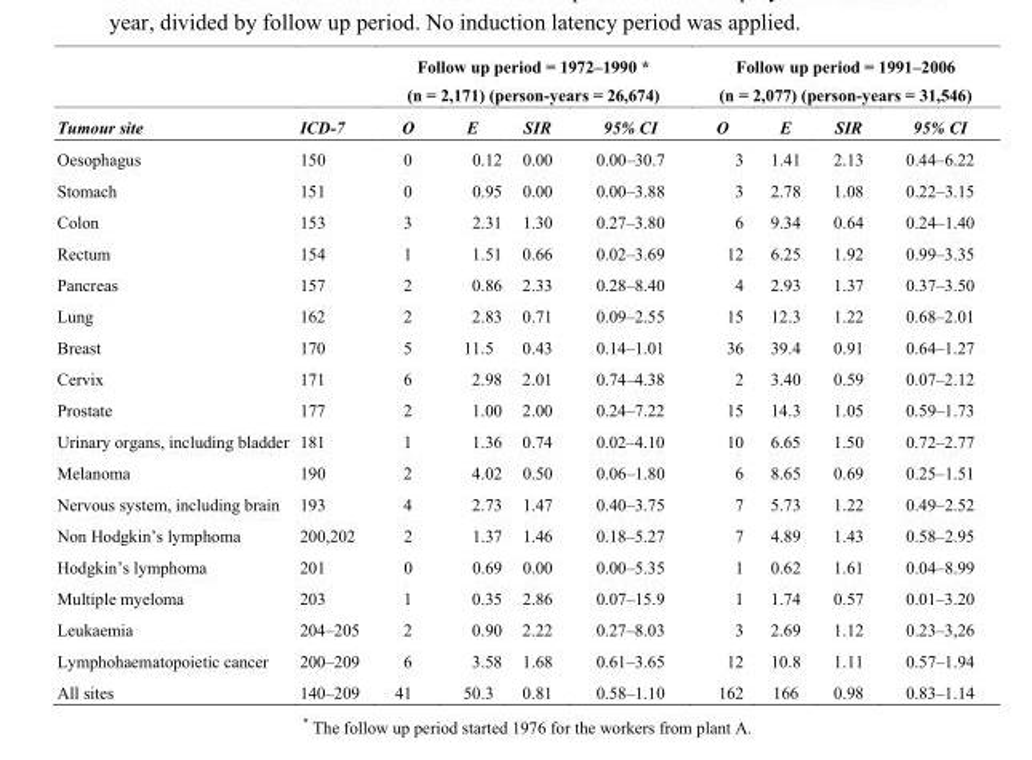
<table><thead><tr><td rowspan="2">Tumour site</td><td rowspan="2">ICD-7</td><td colspan="4">Follow up period = 1972–1990 * (n = 2,171) (person-years = 26,674)</td><td colspan="4">Follow up period = 1991–2006 (n = 2,077) (person-years = 31,546)</td></tr><tr><td>O</td><td>E</td><td>SIR</td><td>95% CI</td><td>O</td><td>E</td><td>SIR</td><td>95% CI</td></tr></thead><tbody><tr><td>Oesophagus</td><td>150</td><td>0</td><td>0.12</td><td>0.00</td><td>0.00–30.7</td><td>3</td><td>1.41</td><td>2.13</td><td>0.44–6.22</td></tr><tr><td>Stomach</td><td>151</td><td>0</td><td>0.95</td><td>0.00</td><td>0.00–3.88</td><td>3</td><td>2.78</td><td>1.08</td><td>0.22–3.15</td></tr><tr><td>Colon</td><td>153</td><td>3</td><td>2.31</td><td>1.30</td><td>0.27–3.80</td><td>6</td><td>9.34</td><td>0.64</td><td>0.24–1.40</td></tr><tr><td>Rectum</td><td>154</td><td>1</td><td>1.51</td><td>0.66</td><td>0.02–3.69</td><td>12</td><td>6.25</td><td>1.92</td><td>0.99–3.35</td></tr><tr><td>Pancreas</td><td>157</td><td>2</td><td>0.86</td><td>2.33</td><td>0.28–8.40</td><td>4</td><td>2.93</td><td>1.37</td><td>0.37–3.50</td></tr><tr><td>Lung</td><td>162</td><td>2</td><td>2.83</td><td>0.71</td><td>0.09–2.55</td><td>15</td><td>12.3</td><td>1.22</td><td>0.68–2.01</td></tr><tr><td>Breast</td><td>170</td><td>5</td><td>11.5</td><td>0.43</td><td>0.14–1.01</td><td>36</td><td>39.4</td><td>0.91</td><td>0.64–1.27</td></tr><tr><td>Cervix</td><td>171</td><td>6</td><td>2.98</td><td>2.01</td><td>0.74–4.38</td><td>2</td><td>3.40</td><td>0.59</td><td>0.07–2.12</td></tr><tr><td>Prostate</td><td>177</td><td>2</td><td>1.00</td><td>2.00</td><td>0.24–7.22</td><td>15</td><td>14.3</td><td>1.05</td><td>0.59–1.73</td></tr><tr><td>Urinary organs, including bladder</td><td>181</td><td>1</td><td>1.36</td><td>0.74</td><td>0.02–4.10</td><td>10</td><td>6.65</td><td>1.50</td><td>0.72–2.77</td></tr><tr><td>Melanoma</td><td>190</td><td>2</td><td>4.02</td><td>0.50</td><td>0.06–1.80</td><td>6</td><td>8.65</td><td>0.69</td><td>0.25–1.51</td></tr><tr><td>Nervous system, including brain</td><td>193</td><td>4</td><td>2.73</td><td>1.47</td><td>0.40–3.75</td><td>7</td><td>5.73</td><td>1.22</td><td>0.49–2.52</td></tr><tr><td>Non Hodgkin’s lymphoma</td><td>200,202</td><td>2</td><td>1.37</td><td>1.46</td><td>0.18–5.27</td><td>7</td><td>4.89</td><td>1.43</td><td>0.58–2.95</td></tr><tr><td>Hodgkin’s lymphoma</td><td>201</td><td>0</td><td>0.69</td><td>0.00</td><td>0.00–5.35</td><td>1</td><td>0.62</td><td>1.61</td><td>0.04–8.99</td></tr><tr><td>Multiple myeloma</td><td>203</td><td>1</td><td>0.35</td><td>2.86</td><td>0.07–15.9</td><td>1</td><td>1.74</td><td>0.57</td><td>0.01–3.20</td></tr><tr><td>Leukaemia</td><td>204–205</td><td>2</td><td>0.90</td><td>2.22</td><td>0.27–8.03</td><td>3</td><td>2.69</td><td>1.12</td><td>0.23–3,26</td></tr><tr><td>Lymphohaematopoietic cancer</td><td>200–209</td><td>6</td><td>3.58</td><td>1.68</td><td>0.61–3.65</td><td>12</td><td>10.8</td><td>1.11</td><td>0.57–1.94</td></tr><tr><td>All sites</td><td>140–209</td><td>41</td><td>50.3</td><td>0.81</td><td>0.58–1.10</td><td>162</td><td>166</td><td>0.98</td><td>0.83–1.14</td></tr></tbody></table>